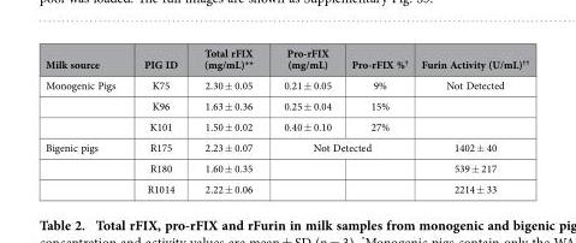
<table><thead><tr><td>Milk source</td><td>PIG ID</td><td>Total rFIX (mg/mL)**</td><td>Pro-rFIX (mg/mL)</td><td>Pro-rFIX %†</td><td>Furin Activity (U/mL)††</td></tr></thead><tbody><tr><td rowspan="3">Monogenic Pigs</td><td>K75</td><td>2.30 ± 0.05</td><td>0.21 ± 0.05</td><td>9%</td><td>Not Detected</td></tr><tr><td>K96</td><td>1.63 ± 0.36</td><td>0.25 ± 0.04</td><td>15%</td><td></td></tr><tr><td>K101</td><td>1.50 ± 0.02</td><td>0.40 ± 0.10</td><td>27%</td><td></td></tr><tr><td rowspan="3">Bigenic pigs</td><td>R175</td><td>2.23 ± 0.07</td><td colspan="2">Not Detected</td><td>1402 ± 40</td></tr><tr><td>R180</td><td>1.60 ± 0.35</td><td></td><td></td><td>539 ± 217</td></tr><tr><td>R1014</td><td>2.22 ± 0.06</td><td></td><td></td><td>2214 ± 33</td></tr></tbody></table>